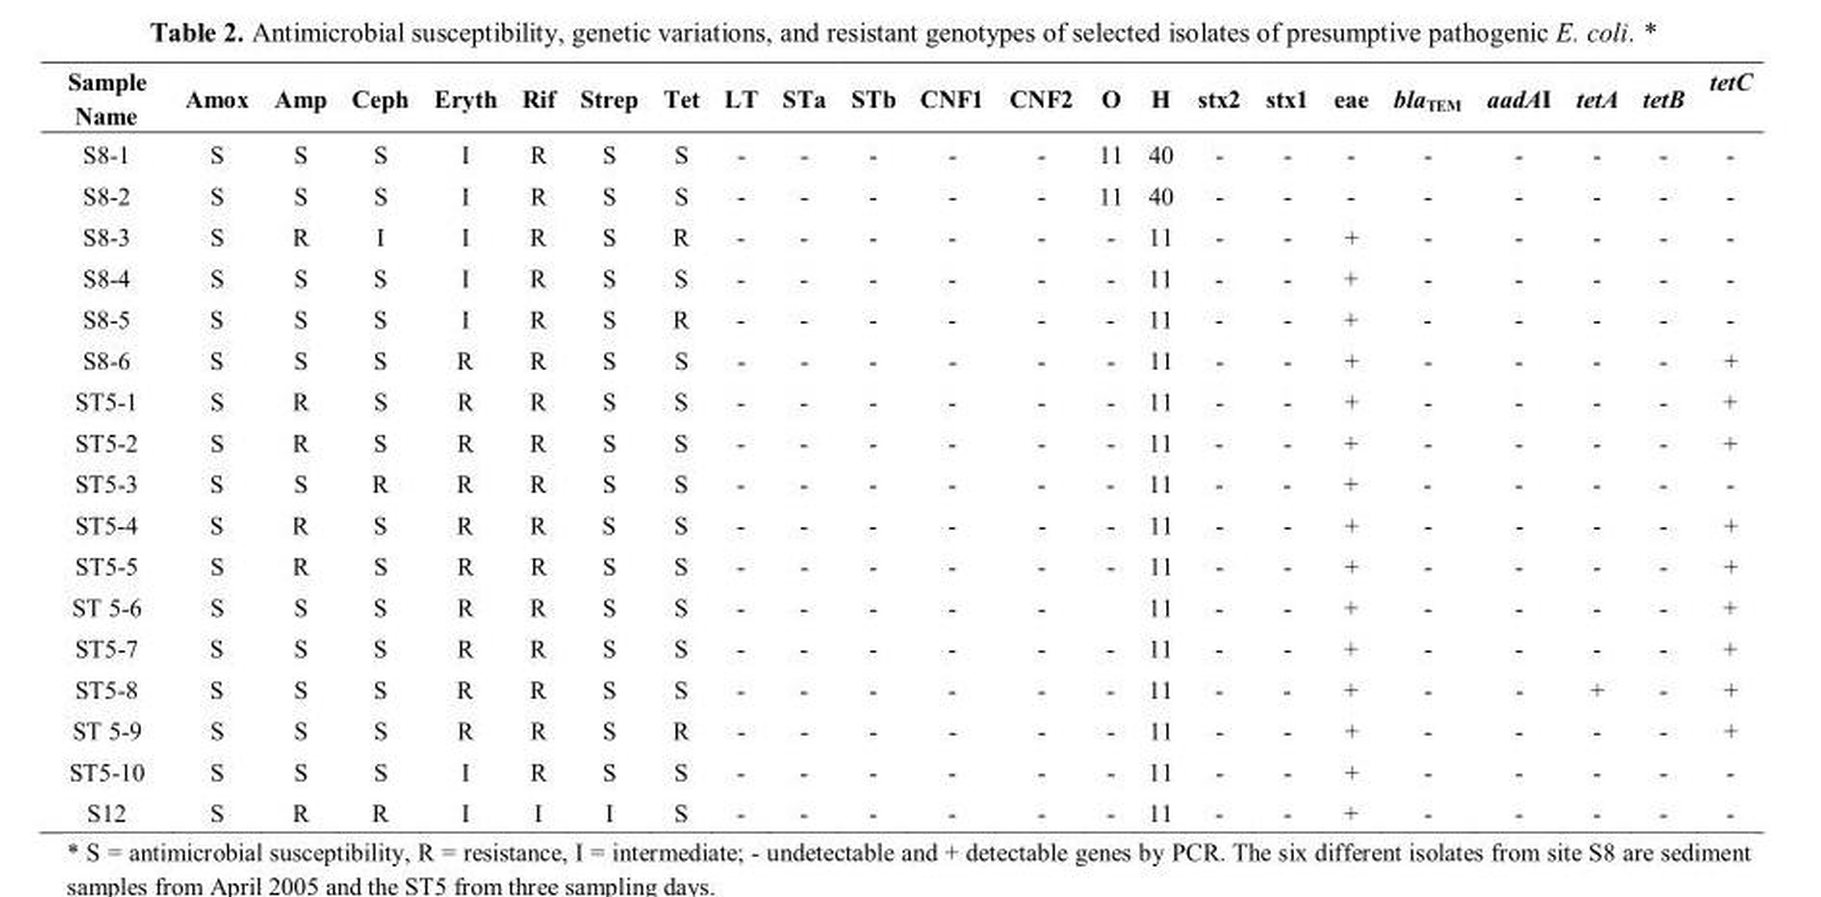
<table><thead><tr><td>Sample Name</td><td>Amox</td><td>Amp</td><td>Ceph</td><td>Eryth</td><td>Rif</td><td>Strep</td><td>Tet</td><td>LT</td><td>STa</td><td>STb</td><td>CNF1</td><td>CNF2</td><td>O</td><td>H</td><td>stx2</td><td>stx1</td><td>eae</td><td>bla<sub>TEM</sub></td><td>aadAI</td><td>tetA</td><td>tetB</td><td>tetC</td></tr></thead><tbody><tr><td>S8-1</td><td>S</td><td>S</td><td>S</td><td>I</td><td>R</td><td>S</td><td>S</td><td>-</td><td>-</td><td>-</td><td>-</td><td>-</td><td>11</td><td>40</td><td>-</td><td>-</td><td>-</td><td>-</td><td>-</td><td>-</td><td>-</td><td>-</td></tr><tr><td>S8-2</td><td>S</td><td>S</td><td>S</td><td>I</td><td>R</td><td>S</td><td>S</td><td>-</td><td>-</td><td>-</td><td>-</td><td>-</td><td>11</td><td>40</td><td>-</td><td>-</td><td>-</td><td>-</td><td>-</td><td>-</td><td>-</td><td>-</td></tr><tr><td>S8-3</td><td>S</td><td>R</td><td>I</td><td>I</td><td>R</td><td>S</td><td>R</td><td>-</td><td>-</td><td>-</td><td>-</td><td>-</td><td>-</td><td>11</td><td>-</td><td>-</td><td>+</td><td>-</td><td>-</td><td>-</td><td>-</td><td>-</td></tr><tr><td>S8-4</td><td>S</td><td>S</td><td>S</td><td>I</td><td>R</td><td>S</td><td>S</td><td>-</td><td>-</td><td>-</td><td>-</td><td>-</td><td>-</td><td>11</td><td>-</td><td>-</td><td>+</td><td>-</td><td>-</td><td>-</td><td>-</td><td>-</td></tr><tr><td>S8-5</td><td>S</td><td>S</td><td>S</td><td>I</td><td>R</td><td>S</td><td>R</td><td>-</td><td>-</td><td>-</td><td>-</td><td>-</td><td>-</td><td>11</td><td>-</td><td>-</td><td>+</td><td>-</td><td>-</td><td>-</td><td>-</td><td>-</td></tr><tr><td>S8-6</td><td>S</td><td>S</td><td>S</td><td>R</td><td>R</td><td>S</td><td>S</td><td>-</td><td>-</td><td>-</td><td>-</td><td>-</td><td>-</td><td>11</td><td>-</td><td>-</td><td>+</td><td>-</td><td>-</td><td>-</td><td>-</td><td>+</td></tr><tr><td>ST5-1</td><td>S</td><td>R</td><td>S</td><td>R</td><td>R</td><td>S</td><td>S</td><td>-</td><td>-</td><td>-</td><td>-</td><td>-</td><td>-</td><td>11</td><td>-</td><td>-</td><td>+</td><td>-</td><td>-</td><td>-</td><td>-</td><td>+</td></tr><tr><td>ST5-2</td><td>S</td><td>R</td><td>S</td><td>R</td><td>R</td><td>S</td><td>S</td><td>-</td><td>-</td><td>-</td><td>-</td><td>-</td><td>-</td><td>11</td><td>-</td><td>-</td><td>+</td><td>-</td><td>-</td><td>-</td><td>-</td><td>+</td></tr><tr><td>ST5-3</td><td>S</td><td>S</td><td>R</td><td>R</td><td>R</td><td>S</td><td>S</td><td>-</td><td>-</td><td>-</td><td>-</td><td>-</td><td>-</td><td>11</td><td>-</td><td>-</td><td>+</td><td>-</td><td>-</td><td>-</td><td>-</td><td>-</td></tr><tr><td>ST5-4</td><td>S</td><td>R</td><td>S</td><td>R</td><td>R</td><td>S</td><td>S</td><td>-</td><td>-</td><td>-</td><td>-</td><td>-</td><td>-</td><td>11</td><td>-</td><td>-</td><td>+</td><td>-</td><td>-</td><td>-</td><td>-</td><td>+</td></tr><tr><td>ST5-5</td><td>S</td><td>R</td><td>S</td><td>R</td><td>R</td><td>S</td><td>S</td><td>-</td><td>-</td><td>-</td><td>-</td><td>-</td><td>-</td><td>11</td><td>-</td><td>-</td><td>+</td><td>-</td><td>-</td><td>-</td><td>-</td><td>+</td></tr><tr><td>ST 5-6</td><td>S</td><td>S</td><td>S</td><td>R</td><td>R</td><td>S</td><td>S</td><td>-</td><td>-</td><td>-</td><td>-</td><td>-</td><td></td><td>11</td><td>-</td><td>-</td><td>+</td><td>-</td><td>-</td><td>-</td><td>-</td><td>+</td></tr><tr><td>ST5-7</td><td>S</td><td>S</td><td>S</td><td>R</td><td>R</td><td>S</td><td>S</td><td>-</td><td>-</td><td>-</td><td>-</td><td>-</td><td>-</td><td>11</td><td>-</td><td>-</td><td>+</td><td>-</td><td>-</td><td>-</td><td>-</td><td>+</td></tr><tr><td>ST5-8</td><td>S</td><td>S</td><td>S</td><td>R</td><td>R</td><td>S</td><td>S</td><td>-</td><td>-</td><td>-</td><td>-</td><td>-</td><td>-</td><td>11</td><td>-</td><td>-</td><td>+</td><td>-</td><td>-</td><td>+</td><td>-</td><td>+</td></tr><tr><td>ST 5-9</td><td>S</td><td>S</td><td>S</td><td>R</td><td>R</td><td>S</td><td>R</td><td>-</td><td>-</td><td>-</td><td>-</td><td>-</td><td>-</td><td>11</td><td>-</td><td>-</td><td>+</td><td>-</td><td>-</td><td>-</td><td>-</td><td>+</td></tr><tr><td>ST5-10</td><td>S</td><td>S</td><td>S</td><td>I</td><td>R</td><td>S</td><td>S</td><td>-</td><td>-</td><td>-</td><td>-</td><td>-</td><td>-</td><td>11</td><td>-</td><td>-</td><td>+</td><td>-</td><td>-</td><td>-</td><td>-</td><td>-</td></tr><tr><td>S12</td><td>S</td><td>R</td><td>R</td><td>I</td><td>I</td><td>I</td><td>S</td><td>-</td><td>-</td><td>-</td><td>-</td><td>-</td><td>-</td><td>11</td><td>-</td><td>-</td><td>+</td><td>-</td><td>-</td><td>-</td><td>-</td><td>-</td></tr></tbody></table>